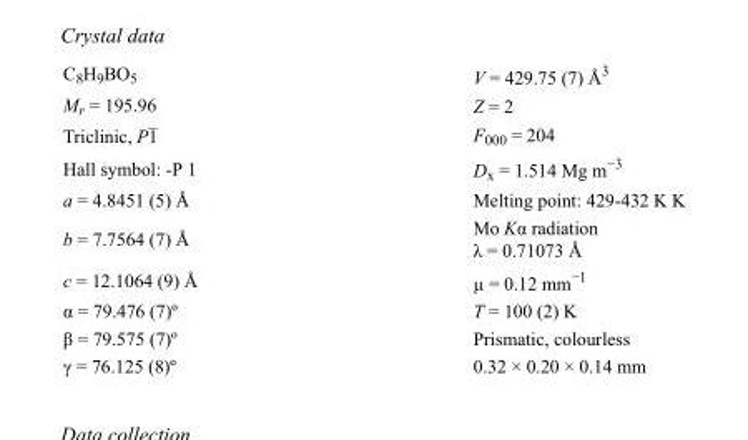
<table><tbody><tr><td>C<sub>8</sub>H<sub>9</sub>BO<sub>5</sub></td><td>V = 429.75 (7) Å<sup>3</sup></td></tr><tr><td>M<sub>r</sub> = 195.96</td><td>Z = 2</td></tr><tr><td>Triclinic, P1</td><td>F000 = 204</td></tr><tr><td>Hall symbol: -P 1</td><td>D<sub>x</sub> = 1.514 Mg m<sup>−3</sup></td></tr><tr><td>a = 4.8451 (5) Å</td><td>Melting point: 429-432 K K</td></tr><tr><td>b = 7.7564 (7) Å</td><td>Mo Kα radiation λ = 0.71073 Å</td></tr><tr><td>c = 12.1064 (9) Å</td><td>µ = 0.12 mm<sup>−1</sup></td></tr><tr><td>α = 79.476 (7)º</td><td>T = 100 (2) K</td></tr><tr><td>β = 79.575 (7)º</td><td>Prismatic, colourless</td></tr><tr><td>γ = 76.125 (8)º</td><td>0.32 × 0.20 × 0.14 mm</td></tr></tbody></table>